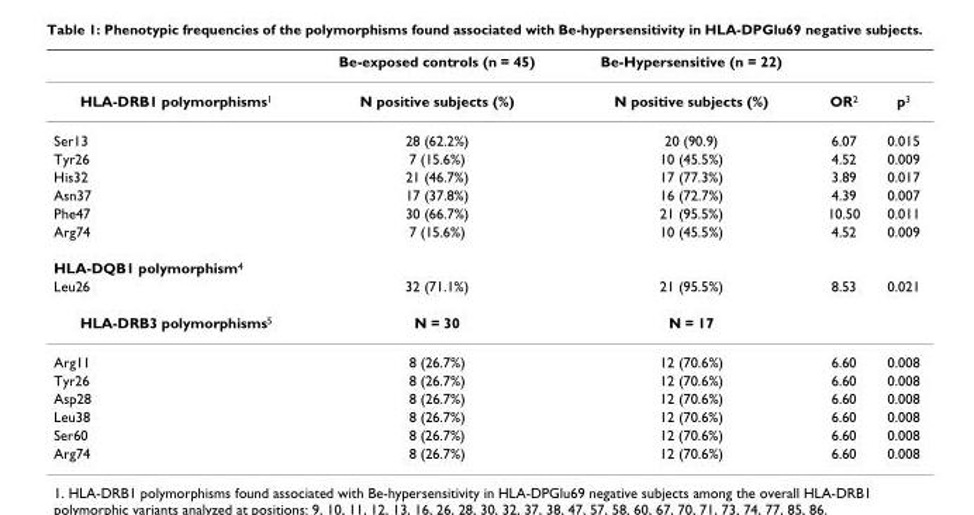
<table><thead><tr><td></td><td>Be-exposed controls (n = 45)</td><td>Be-Hypersensitive (n = 22)</td><td></td><td></td></tr></thead><tbody><tr><td>HLA-DRB1 polymorphisms<sup>1</sup></td><td>N positive subjects (%)</td><td>N positive subjects (%)</td><td>OR<sup>2</sup></td><td>p<sup>3</sup></td></tr><tr><td>Ser13</td><td>28 (62.2%)</td><td>20 (90.9)</td><td>6.07</td><td>0.015</td></tr><tr><td>Tyr26</td><td>7 (15.6%)</td><td>10 (45.5%)</td><td>4.52</td><td>0.009</td></tr><tr><td>His32</td><td>21 (46.7%)</td><td>17 (77.3%)</td><td>3.89</td><td>0.017</td></tr><tr><td>Asn37</td><td>17 (37.8%)</td><td>16 (72.7%)</td><td>4.39</td><td>0.007</td></tr><tr><td>Phe47</td><td>30 (66.7%)</td><td>21 (95.5%)</td><td>10.50</td><td>0.011</td></tr><tr><td>Arg74</td><td>7 (15.6%)</td><td>10 (45.5%)</td><td>4.52</td><td>0.009</td></tr><tr><td colspan="5">HLA-DQB1 polymorphism<sup>4</sup></td></tr><tr><td>Leu26</td><td>32 (71.1%)</td><td>21 (95.5%)</td><td>8.53</td><td>0.021</td></tr><tr><td>HLA-DRB3 polymorphisms<sup>5</sup></td><td>N = 30</td><td>N = 17</td><td></td><td></td></tr><tr><td>Arg11</td><td>8 (26.7%)</td><td>12 (70.6%)</td><td>6.60</td><td>0.008</td></tr><tr><td>Tyr26</td><td>8 (26.7%)</td><td>12 (70.6%)</td><td>6.60</td><td>0.008</td></tr><tr><td>Asp28</td><td>8 (26.7%)</td><td>12 (70.6%)</td><td>6.60</td><td>0.008</td></tr><tr><td>Leu38</td><td>8 (26.7%)</td><td>12 (70.6%)</td><td>6.60</td><td>0.008</td></tr><tr><td>Ser60</td><td>8 (26.7%)</td><td>12 (70.6%)</td><td>6.60</td><td>0.008</td></tr><tr><td>Arg74</td><td>8 (26.7%)</td><td>12 (70.6%)</td><td>6.60</td><td>0.008</td></tr></tbody></table>